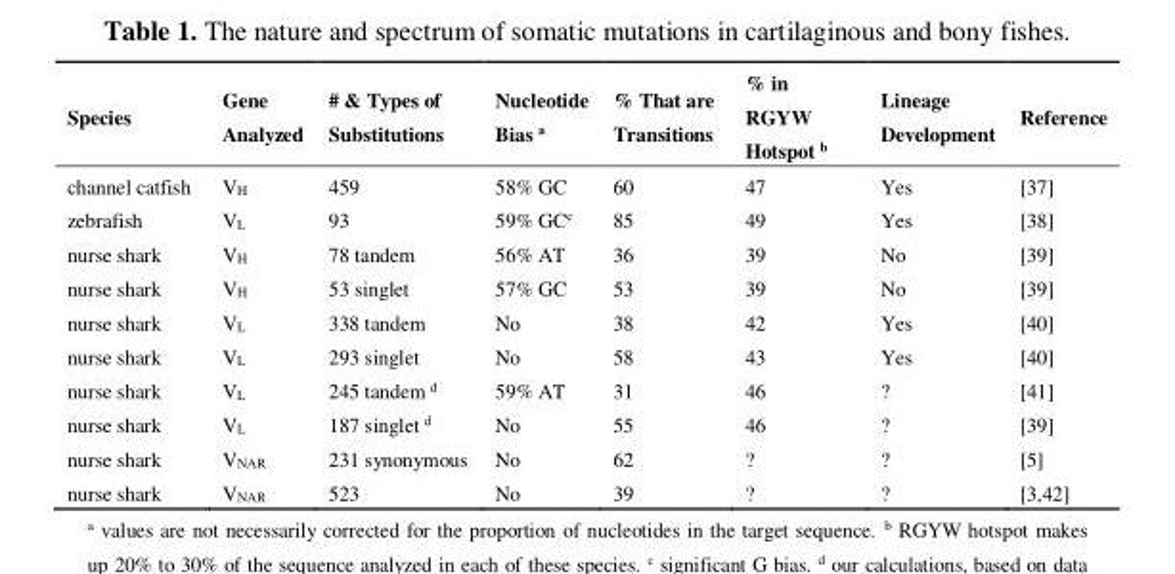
<table><thead><tr><td>Species</td><td>Gene Analyzed</td><td># &amp; Types of Substitutions</td><td>Nucleotide Bias <sup>a</sup></td><td>% That are Transitions</td><td>% in RGYW Hotspot <sup>b</sup></td><td>Lineage Development</td><td>Reference</td></tr></thead><tbody><tr><td>channel catfish</td><td>V<sub>H</sub></td><td>459</td><td>58% GC</td><td>60</td><td>47</td><td>Yes</td><td>[37]</td></tr><tr><td>zebrafish</td><td>V<sub>L</sub></td><td>93</td><td>59% GC<sup>c</sup></td><td>85</td><td>49</td><td>Yes</td><td>[38]</td></tr><tr><td>nurse shark</td><td>V<sub>H</sub></td><td>78 tandem</td><td>56% AT</td><td>36</td><td>39</td><td>No</td><td>[39]</td></tr><tr><td>nurse shark</td><td>V<sub>H</sub></td><td>53 singlet</td><td>57% GC</td><td>53</td><td>39</td><td>No</td><td>[39]</td></tr><tr><td>nurse shark</td><td>V<sub>L</sub></td><td>338 tandem</td><td>No</td><td>38</td><td>42</td><td>Yes</td><td>[40]</td></tr><tr><td>nurse shark</td><td>V<sub>L</sub></td><td>293 singlet</td><td>No</td><td>58</td><td>43</td><td>Yes</td><td>[40]</td></tr><tr><td>nurse shark</td><td>V<sub>L</sub></td><td>245 tandem <sup>d</sup></td><td>59% AT</td><td>31</td><td>46</td><td>?</td><td>[41]</td></tr><tr><td>nurse shark</td><td>V<sub>L</sub></td><td>187 singlet <sup>d</sup></td><td>No</td><td>55</td><td>46</td><td>?</td><td>[39]</td></tr><tr><td>nurse shark</td><td>V<sub>NAR</sub></td><td>231 synonymous</td><td>No</td><td>62</td><td>?</td><td>?</td><td>[5]</td></tr><tr><td>nurse shark</td><td>V<sub>NAR</sub></td><td>523</td><td>No</td><td>39</td><td>?</td><td>?</td><td>[3,42]</td></tr></tbody></table>